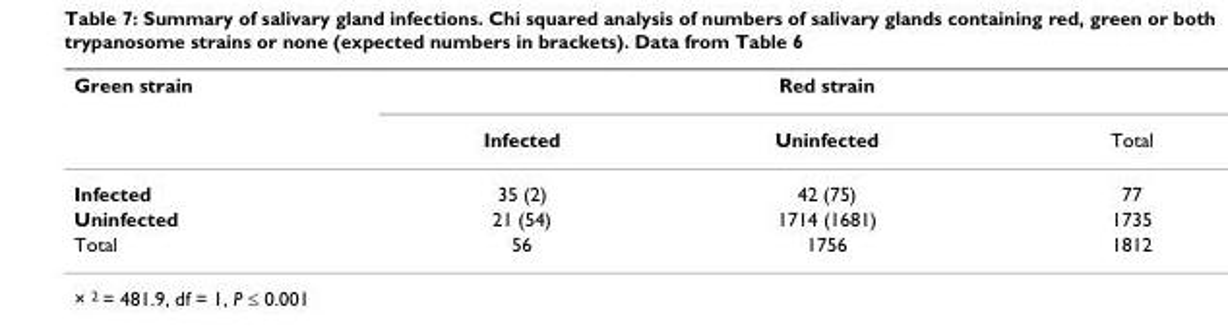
<table><thead><tr><td rowspan="2">Green strain</td><td colspan="3">Red strain</td></tr><tr><td>Infected</td><td>Uninfected</td><td>Total</td></tr></thead><tbody><tr><td>Infected</td><td>35 (2)</td><td>42 (75)</td><td>77</td></tr><tr><td>Uninfected</td><td>21 (54)</td><td>1714 (1681)</td><td>1735</td></tr><tr><td>Total</td><td>56</td><td>1756</td><td>1812</td></tr></tbody></table>